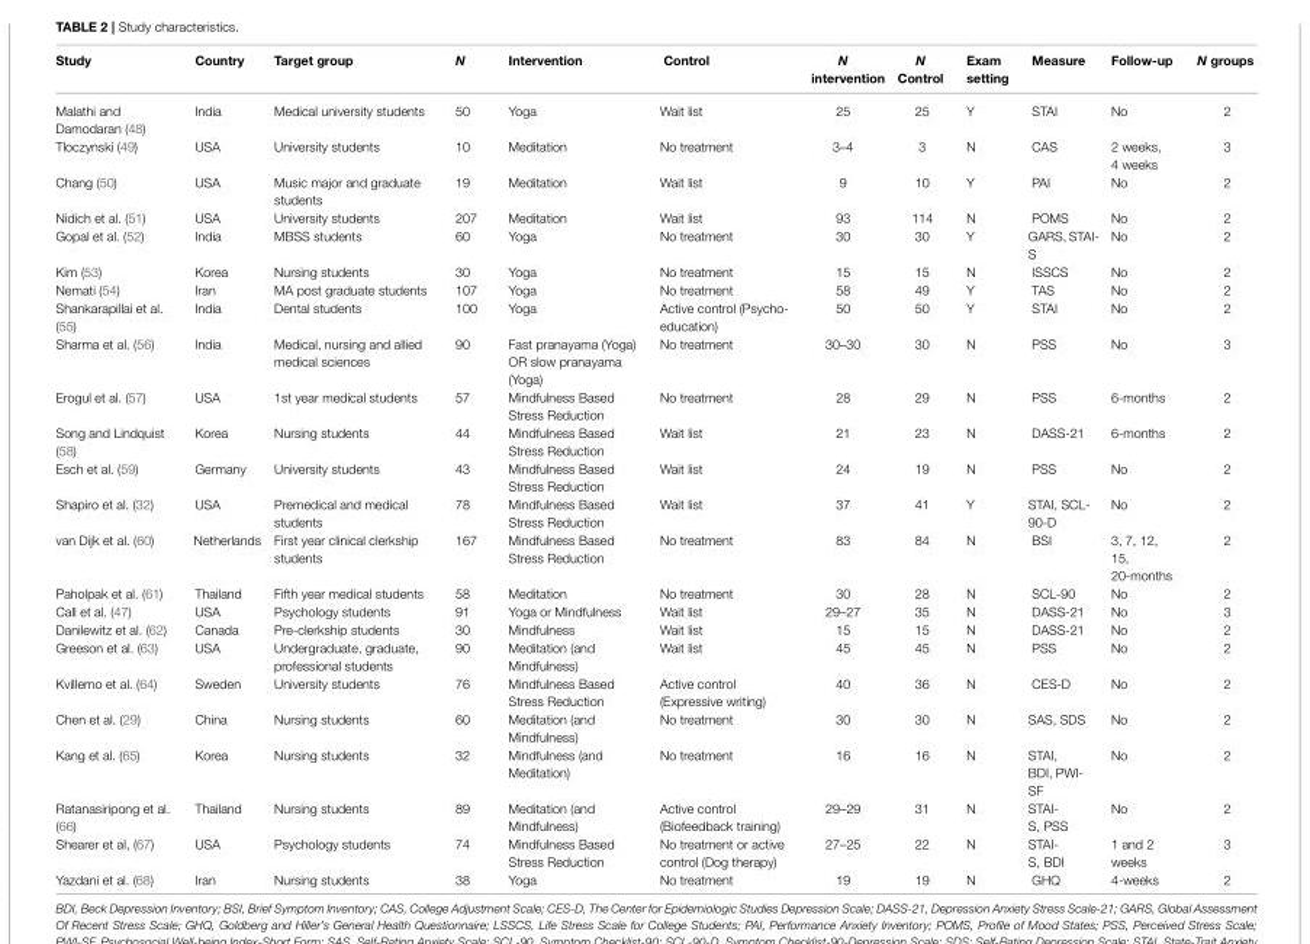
<table><thead><tr><td>Study</td><td>Country</td><td>Target group</td><td>N</td><td>Intervention</td><td>Control</td><td>N intervention</td><td>N Control</td><td>Exam setting</td><td>Measure</td><td>Follow-up</td><td>N groups</td></tr></thead><tbody><tr><td>Malathi and Damodaran (48)</td><td>India</td><td>Medical university students</td><td>50</td><td>Yoga</td><td>Wait list</td><td>25</td><td>25</td><td>Y</td><td>STAI</td><td>No</td><td>2</td></tr><tr><td>Tloczynski (49)</td><td>USA</td><td>University students</td><td>10</td><td>Meditation</td><td>No treatment</td><td>3–4</td><td>3</td><td>N</td><td>CAS</td><td>2 weeks, 4 weeks</td><td>3</td></tr><tr><td>Chang (50)</td><td>USA</td><td>Music major and graduate students</td><td>19</td><td>Meditation</td><td>Wait list</td><td>9</td><td>10</td><td>Y</td><td>PAI</td><td>No</td><td>2</td></tr><tr><td>Nidich et al. (51)</td><td>USA</td><td>University students</td><td>207</td><td>Meditation</td><td>Wait list</td><td>93</td><td>114</td><td>N</td><td>POMS</td><td>No</td><td>2</td></tr><tr><td>Gopal et al. (52)</td><td>India</td><td>MBSS students</td><td>60</td><td>Yoga</td><td>No treatment</td><td>30</td><td>30</td><td>Y</td><td>GARS, STAI- S</td><td>No</td><td>2</td></tr><tr><td>Kim (53)</td><td>Korea</td><td>Nursing students</td><td>30</td><td>Yoga</td><td>No treatment</td><td>15</td><td>15</td><td>N</td><td>ISSCS</td><td>No</td><td>2</td></tr><tr><td>Nemati (54)</td><td>Iran</td><td>MA post graduate students</td><td>107</td><td>Yoga</td><td>No treatment</td><td>58</td><td>49</td><td>Y</td><td>TAS</td><td>No</td><td>2</td></tr><tr><td>Shankarapillai et al. (55)</td><td>India</td><td>Dental students</td><td>100</td><td>Yoga</td><td>Active control (Psycho- education)</td><td>50</td><td>50</td><td>Y</td><td>STAI</td><td>No</td><td>2</td></tr><tr><td>Sharma et al. (56)</td><td>India</td><td>Medical, nursing and allied medical sciences</td><td>90</td><td>Fast pranayama (Yoga) OR slow pranayama (Yoga)</td><td>No treatment</td><td>30–30</td><td>30</td><td>N</td><td>PSS</td><td>No</td><td>3</td></tr><tr><td>Erogul et al. (57)</td><td>USA</td><td>1st year medical students</td><td>57</td><td>Mindfulness Based Stress Reduction</td><td>No treatment</td><td>28</td><td>29</td><td>N</td><td>PSS</td><td>6-months</td><td>2</td></tr><tr><td>Song and Lindquist (58)</td><td>Korea</td><td>Nursing students</td><td>44</td><td>Mindfulness Based Stress Reduction</td><td>Wait list</td><td>21</td><td>23</td><td>N</td><td>DASS-21</td><td>6-months</td><td>2</td></tr><tr><td>Esch et al. (59)</td><td>Germany</td><td>University students</td><td>43</td><td>Mindfulness Based Stress Reduction</td><td>Wait list</td><td>24</td><td>19</td><td>N</td><td>PSS</td><td>No</td><td>2</td></tr><tr><td>Shapiro et al. (32)</td><td>USA</td><td>Premedical and medical students</td><td>78</td><td>Mindfulness Based Stress Reduction</td><td>Wait list</td><td>37</td><td>41</td><td>Y</td><td>STAI, SCL- 90-D</td><td>No</td><td>2</td></tr><tr><td>van Dijk et al. (60)</td><td>Netherlands</td><td>First year clinical clerkship students</td><td>167</td><td>Mindfulness Based Stress Reduction</td><td>No treatment</td><td>83</td><td>84</td><td>N</td><td>BSI</td><td>3, 7, 12, 15, 20-months</td><td>2</td></tr><tr><td>Paholpak et al. (61)</td><td>Thailand</td><td>Fifth year medical students</td><td>58</td><td>Meditation</td><td>No treatment</td><td>30</td><td>28</td><td>N</td><td>SCL-90</td><td>No</td><td>2</td></tr><tr><td>Call et al. (47)</td><td>USA</td><td>Psychology students</td><td>91</td><td>Yoga or Mindfulness</td><td>Wait list</td><td>29–27</td><td>35</td><td>N</td><td>DASS-21</td><td>No</td><td>3</td></tr><tr><td>Danilewitz et al. (62)</td><td>Canada</td><td>Pre-clerkship students</td><td>30</td><td>Mindfulness</td><td>Wait list</td><td>15</td><td>15</td><td>N</td><td>DASS-21</td><td>No</td><td>2</td></tr><tr><td>Greeson et al. (63)</td><td>USA</td><td>Undergraduate, graduate, professional students</td><td>90</td><td>Meditation (and Mindfulness)</td><td>Wait list</td><td>45</td><td>45</td><td>N</td><td>PSS</td><td>No</td><td>2</td></tr><tr><td>Kvillemo et al. (64)</td><td>Sweden</td><td>University students</td><td>76</td><td>Mindfulness Based Stress Reduction</td><td>Active control (Expressive writing)</td><td>40</td><td>36</td><td>N</td><td>CES-D</td><td>No</td><td>2</td></tr><tr><td>Chen et al. (29)</td><td>China</td><td>Nursing students</td><td>60</td><td>Meditation (and Mindfulness)</td><td>No treatment</td><td>30</td><td>30</td><td>N</td><td>SAS, SDS</td><td>No</td><td>2</td></tr><tr><td>Kang et al. (65)</td><td>Korea</td><td>Nursing students</td><td>32</td><td>Mindfulness (and Meditation)</td><td>No treatment</td><td>16</td><td>16</td><td>N</td><td>STAI, BDI, PWI- SF</td><td>No</td><td>2</td></tr><tr><td>Ratanasiripong et al. (66)</td><td>Thailand</td><td>Nursing students</td><td>89</td><td>Meditation (and Mindfulness)</td><td>Active control (Biofeedback training)</td><td>29–29</td><td>31</td><td>N</td><td>STAI- S, PSS</td><td>No</td><td>2</td></tr><tr><td>Shearer et al, (67)</td><td>USA</td><td>Psychology students</td><td>74</td><td>Mindfulness Based Stress Reduction</td><td>No treatment or active control (Dog therapy)</td><td>27–25</td><td>22</td><td>N</td><td>STAI- S, BDI</td><td>1 and 2 weeks</td><td>3</td></tr><tr><td>Yazdani et al. (68)</td><td>Iran</td><td>Nursing students</td><td>38</td><td>Yoga</td><td>No treatment</td><td>19</td><td>19</td><td>N</td><td>GHQ</td><td>4-weeks</td><td>2</td></tr></tbody></table>